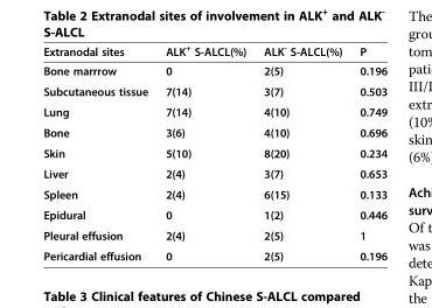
<table><thead><tr><td>Extranodal sites</td><td>ALK<sup>+</sup> S-ALCL(%)</td><td>ALK<sup>-</sup> S-ALCL(%)</td><td>P</td></tr></thead><tbody><tr><td>Bone marrrow</td><td>0</td><td>2(5)</td><td>0.196</td></tr><tr><td>Subcutaneous tissue</td><td>7(14)</td><td>3(7)</td><td>0.503</td></tr><tr><td>Lung</td><td>7(14)</td><td>4(10)</td><td>0.749</td></tr><tr><td>Bone</td><td>3(6)</td><td>4(10)</td><td>0.696</td></tr><tr><td>Skin</td><td>5(10)</td><td>8(20)</td><td>0.234</td></tr><tr><td>Liver</td><td>2(4)</td><td>3(7)</td><td>0.653</td></tr><tr><td>Spleen</td><td>2(4)</td><td>6(15)</td><td>0.133</td></tr><tr><td>Epidural</td><td>0</td><td>1(2)</td><td>0.446</td></tr><tr><td>Pleural effusion</td><td>2(4)</td><td>2(5)</td><td>1</td></tr><tr><td>Pericardial effusion</td><td>0</td><td>2(5)</td><td>0.196</td></tr></tbody></table>